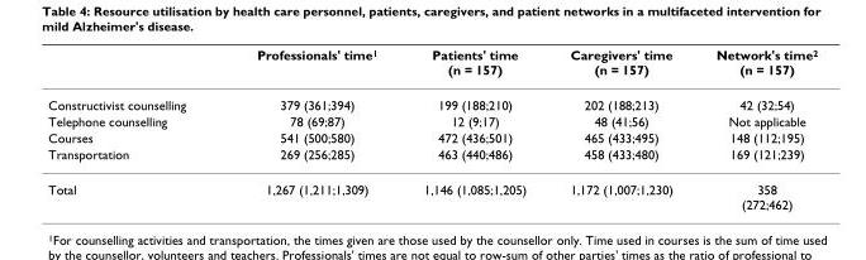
<table><thead><tr><td></td><td>Professionals&#x27; time<sup>1</sup></td><td>Patients&#x27; time (n = 157)</td><td>Caregivers&#x27; time (n = 157)</td><td>Network&#x27;s time<sup>2</sup> (n = 157)</td></tr></thead><tbody><tr><td>Constructivist counselling</td><td>379 (361;394)</td><td>199 (188;210)</td><td>202 (188;213)</td><td>42 (32;54)</td></tr><tr><td>Telephone counselling</td><td>78 (69;87)</td><td>12 (9;17)</td><td>48 (41;56)</td><td>Not applicable</td></tr><tr><td>Courses</td><td>541 (500;580)</td><td>472 (436;501)</td><td>465 (433;495)</td><td>148 (112;195)</td></tr><tr><td>Transportation</td><td>269 (256;285)</td><td>463 (440;486)</td><td>458 (433;480)</td><td>169 (121;239)</td></tr><tr><td>Total</td><td>1,267 (1,211;1,309)</td><td>1,146 (1,085;1,205)</td><td>1,172 (1,007;1,230)</td><td>358 (272;462)</td></tr></tbody></table>